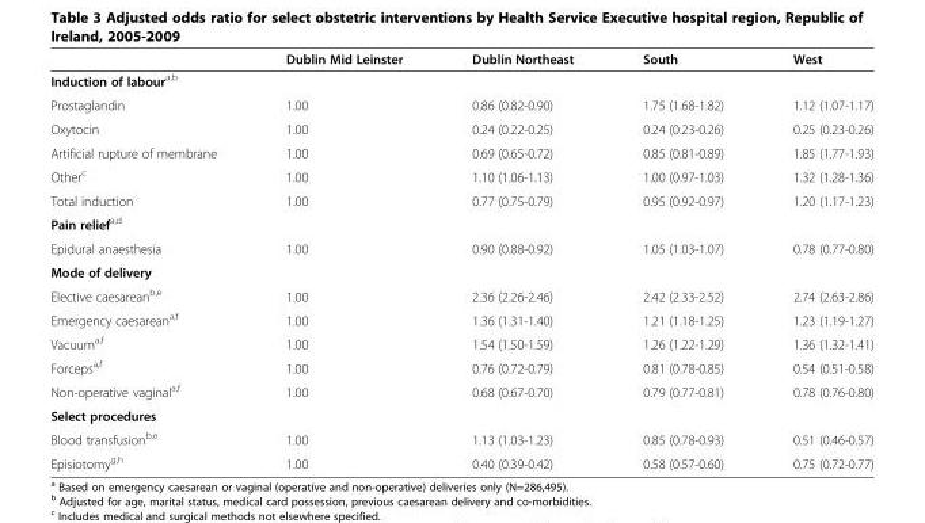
<table><thead><tr><td></td><td>Dublin Mid Leinster</td><td>Dublin Northeast</td><td>South</td><td>West</td></tr></thead><tbody><tr><td colspan="5">Induction of labour<sup>a,b</sup></td></tr><tr><td>Prostaglandin</td><td>1.00</td><td>0.86 (0.82-0.90)</td><td>1.75 (1.68-1.82)</td><td>1.12 (1.07-1.17)</td></tr><tr><td>Oxytocin</td><td>1.00</td><td>0.24 (0.22-0.25)</td><td>0.24 (0.23-0.26)</td><td>0.25 (0.23-0.26)</td></tr><tr><td>Artificial rupture of membrane</td><td>1.00</td><td>0.69 (0.65-0.72)</td><td>0.85 (0.81-0.89)</td><td>1.85 (1.77-1.93)</td></tr><tr><td>Other<sup>c</sup></td><td>1.00</td><td>1.10 (1.06-1.13)</td><td>1.00 (0.97-1.03)</td><td>1.32 (1.28-1.36)</td></tr><tr><td>Total induction</td><td>1.00</td><td>0.77 (0.75-0.79)</td><td>0.95 (0.92-0.97)</td><td>1.20 (1.17-1.23)</td></tr><tr><td colspan="5">Pain relief<sup>a,d</sup></td></tr><tr><td>Epidural anaesthesia</td><td>1.00</td><td>0.90 (0.88-0.92)</td><td>1.05 (1.03-1.07)</td><td>0.78 (0.77-0.80)</td></tr><tr><td colspan="5">Mode of delivery</td></tr><tr><td>Elective caesarean<sup>b,e</sup></td><td>1.00</td><td>2.36 (2.26-2.46)</td><td>2.42 (2.33-2.52)</td><td>2.74 (2.63-2.86)</td></tr><tr><td>Emergency caesarean<sup>a,f</sup></td><td>1.00</td><td>1.36 (1.31-1.40)</td><td>1.21 (1.18-1.25)</td><td>1.23 (1.19-1.27)</td></tr><tr><td>Vacuum<sup>a,f</sup></td><td>1.00</td><td>1.54 (1.50-1.59)</td><td>1.26 (1.22-1.29)</td><td>1.36 (1.32-1.41)</td></tr><tr><td>Forceps<sup>a,f</sup></td><td>1.00</td><td>0.76 (0.72-0.79)</td><td>0.81 (0.78-0.85)</td><td>0.54 (0.51-0.58)</td></tr><tr><td>Non-operative vaginal<sup>a,f</sup></td><td>1.00</td><td>0.68 (0.67-0.70)</td><td>0.79 (0.77-0.81)</td><td>0.78 (0.76-0.80)</td></tr><tr><td colspan="5">Select procedures</td></tr><tr><td>Blood transfusion<sup>b,e</sup></td><td>1.00</td><td>1.13 (1.03-1.23)</td><td>0.85 (0.78-0.93)</td><td>0.51 (0.46-0.57)</td></tr><tr><td>Episiotomy<sup>g,h</sup></td><td>1.00</td><td>0.40 (0.39-0.42)</td><td>0.58 (0.57-0.60)</td><td>0.75 (0.72-0.77)</td></tr></tbody></table>